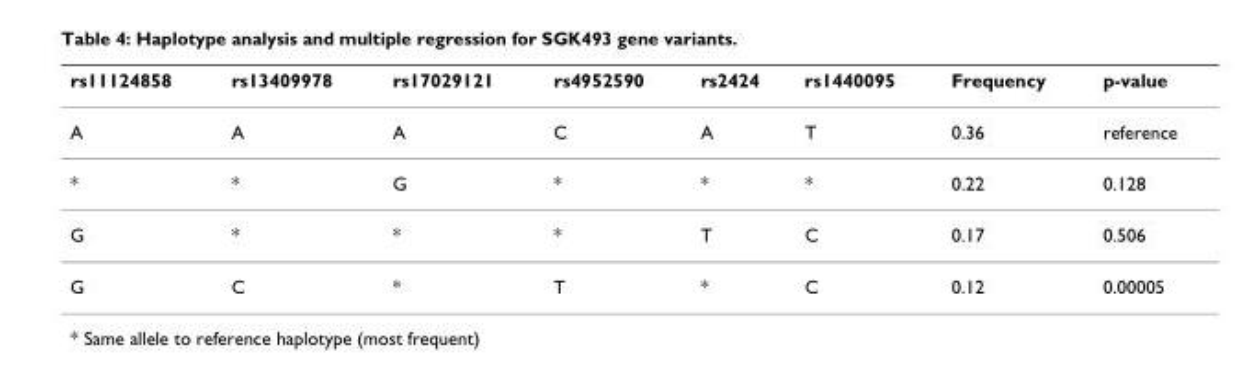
<table><thead><tr><td>rs11124858</td><td>rs13409978</td><td>rs17029121</td><td>rs4952590</td><td>rs2424</td><td>rs1440095</td><td>Frequency</td><td>p-value</td></tr></thead><tbody><tr><td>A</td><td>A</td><td>A</td><td>C</td><td>A</td><td>T</td><td>0.36</td><td>reference</td></tr><tr><td>*</td><td>*</td><td>G</td><td>*</td><td>*</td><td>*</td><td>0.22</td><td>0.128</td></tr><tr><td>G</td><td>*</td><td>*</td><td>*</td><td>T</td><td>C</td><td>0.17</td><td>0.506</td></tr><tr><td>G</td><td>C</td><td>*</td><td>T</td><td>*</td><td>C</td><td>0.12</td><td>0.00005</td></tr></tbody></table>